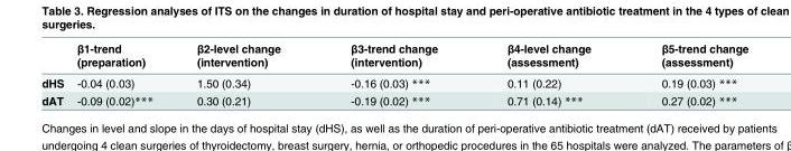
<table><thead><tr><td></td><td>β1-trend (preparation)</td><td>β2-level change (intervention)</td><td>β3-trend change (intervention)</td><td>β4-level change (assessment)</td><td>β5-trend change (assessment)</td></tr></thead><tbody><tr><td>dHS</td><td>-0.04 (0.03)</td><td>1.50 (0.34)</td><td>-0.16 (0.03) ***</td><td>0.11 (0.22)</td><td>0.19 (0.03) ***</td></tr><tr><td>dAT</td><td>-0.09 (0.02)***</td><td>0.30 (0.21)</td><td>-0.19 (0.02) ***</td><td>0.71 (0.14) ***</td><td>0.27 (0.02) ***</td></tr></tbody></table>